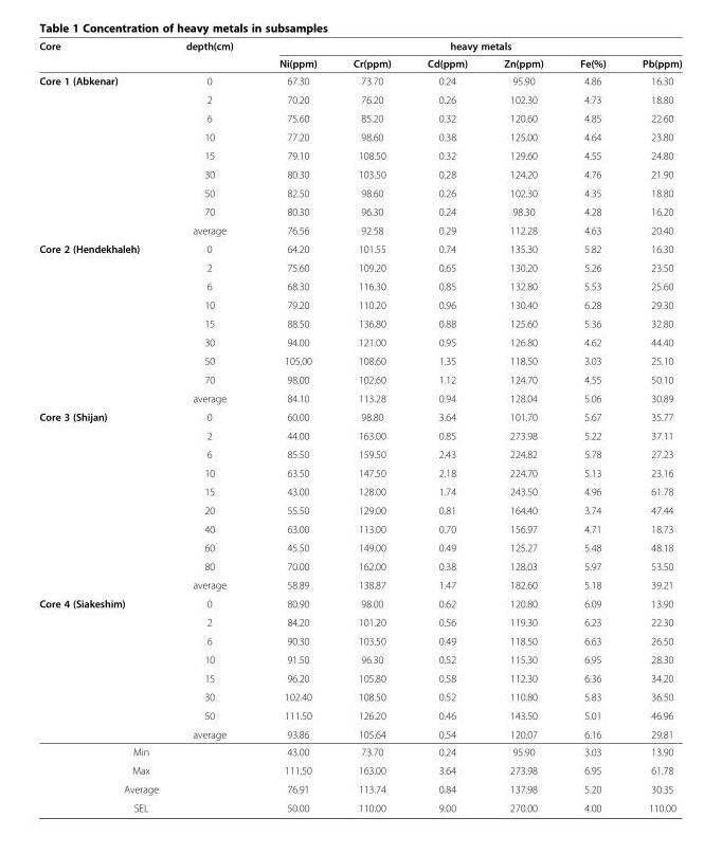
<table><thead><tr><td rowspan="2">Core</td><td rowspan="2">depth(cm)</td><td colspan="6">heavy metals</td></tr><tr><td>Ni(ppm)</td><td>Cr(ppm)</td><td>Cd(ppm)</td><td>Zn(ppm)</td><td>Fe(%)</td><td>Pb(ppm)</td></tr></thead><tbody><tr><td rowspan="9">Core 1 (Abkenar)</td><td>0</td><td>67.30</td><td>73.70</td><td>0.24</td><td>95.90</td><td>4.86</td><td>16.30</td></tr><tr><td>2</td><td>70.20</td><td>76.20</td><td>0.26</td><td>102.30</td><td>4.73</td><td>18.80</td></tr><tr><td>6</td><td>75.60</td><td>85.20</td><td>0.32</td><td>120.60</td><td>4.85</td><td>22.60</td></tr><tr><td>10</td><td>77.20</td><td>98.60</td><td>0.38</td><td>125.00</td><td>4.64</td><td>23.80</td></tr><tr><td>15</td><td>79.10</td><td>108.50</td><td>0.32</td><td>129.60</td><td>4.55</td><td>24.80</td></tr><tr><td>30</td><td>80.30</td><td>103.50</td><td>0.28</td><td>124.20</td><td>4.76</td><td>21.90</td></tr><tr><td>50</td><td>82.50</td><td>98.60</td><td>0.26</td><td>102.30</td><td>4.35</td><td>18.80</td></tr><tr><td>70</td><td>80.30</td><td>96.30</td><td>0.24</td><td>98.30</td><td>4.28</td><td>16.20</td></tr><tr><td>average</td><td>76.56</td><td>92.58</td><td>0.29</td><td>112.28</td><td>4.63</td><td>20.40</td></tr><tr><td rowspan="9">Core 2 (Hendekhaleh)</td><td>0</td><td>64.20</td><td>101.55</td><td>0.74</td><td>135.30</td><td>5.82</td><td>16.30</td></tr><tr><td>2</td><td>75.60</td><td>109.20</td><td>0.65</td><td>130.20</td><td>5.26</td><td>23.50</td></tr><tr><td>6</td><td>68.30</td><td>116.30</td><td>0.85</td><td>132.80</td><td>5.53</td><td>25.60</td></tr><tr><td>10</td><td>79.20</td><td>110.20</td><td>0.96</td><td>130.40</td><td>6.28</td><td>29.30</td></tr><tr><td>15</td><td>88.50</td><td>136.80</td><td>0.88</td><td>125.60</td><td>5.36</td><td>32.80</td></tr><tr><td>30</td><td>94.00</td><td>121.00</td><td>0.95</td><td>126.80</td><td>4.62</td><td>44.40</td></tr><tr><td>50</td><td>105.00</td><td>108.60</td><td>1.35</td><td>118.50</td><td>3.03</td><td>25.10</td></tr><tr><td>70</td><td>98.00</td><td>102.60</td><td>1.12</td><td>124.70</td><td>4.55</td><td>50.10</td></tr><tr><td>average</td><td>84.10</td><td>113.28</td><td>0.94</td><td>128.04</td><td>5.06</td><td>30.89</td></tr><tr><td rowspan="10">Core 3 (Shijan)</td><td>0</td><td>60.00</td><td>98.80</td><td>3.64</td><td>101.70</td><td>5.67</td><td>35.77</td></tr><tr><td>2</td><td>44.00</td><td>163.00</td><td>0.85</td><td>273.98</td><td>5.22</td><td>37.11</td></tr><tr><td>6</td><td>85.50</td><td>159.50</td><td>2.43</td><td>224.82</td><td>5.78</td><td>27.23</td></tr><tr><td>10</td><td>63.50</td><td>147.50</td><td>2.18</td><td>224.70</td><td>5.13</td><td>23.16</td></tr><tr><td>15</td><td>43.00</td><td>128.00</td><td>1.74</td><td>243.50</td><td>4.96</td><td>61.78</td></tr><tr><td>20</td><td>55.50</td><td>129.00</td><td>0.81</td><td>164.40</td><td>3.74</td><td>47.44</td></tr><tr><td>40</td><td>63.00</td><td>113.00</td><td>0.70</td><td>156.97</td><td>4.71</td><td>18.73</td></tr><tr><td>60</td><td>45.50</td><td>149.00</td><td>0.49</td><td>125.27</td><td>5.48</td><td>48.18</td></tr><tr><td>80</td><td>70.00</td><td>162.00</td><td>0.38</td><td>128.03</td><td>5.97</td><td>53.50</td></tr><tr><td>average</td><td>58.89</td><td>138.87</td><td>1.47</td><td>182.60</td><td>5.18</td><td>39.21</td></tr><tr><td rowspan="8">Core 4 (Siakeshim)</td><td>0</td><td>80.90</td><td>98.00</td><td>0.62</td><td>120.80</td><td>6.09</td><td>13.90</td></tr><tr><td>2</td><td>84.20</td><td>101.20</td><td>0.56</td><td>119.30</td><td>6.23</td><td>22.30</td></tr><tr><td>6</td><td>90.30</td><td>103.50</td><td>0.49</td><td>118.50</td><td>6.63</td><td>26.50</td></tr><tr><td>10</td><td>91.50</td><td>96.30</td><td>0.52</td><td>115.30</td><td>6.95</td><td>28.30</td></tr><tr><td>15</td><td>96.20</td><td>105.80</td><td>0.58</td><td>112.30</td><td>6.36</td><td>34.20</td></tr><tr><td>30</td><td>102.40</td><td>108.50</td><td>0.52</td><td>110.80</td><td>5.83</td><td>36.50</td></tr><tr><td>50</td><td>111.50</td><td>126.20</td><td>0.46</td><td>143.50</td><td>5.01</td><td>46.96</td></tr><tr><td>average</td><td>93.86</td><td>105.64</td><td>0.54</td><td>120.07</td><td>6.16</td><td>29.81</td></tr><tr><td colspan="2">Min</td><td>43.00</td><td>73.70</td><td>0.24</td><td>95.90</td><td>3.03</td><td>13.90</td></tr><tr><td colspan="2">Max</td><td>111.50</td><td>163.00</td><td>3.64</td><td>273.98</td><td>6.95</td><td>61.78</td></tr><tr><td colspan="2">Average</td><td>76.91</td><td>113.74</td><td>0.84</td><td>137.98</td><td>5.20</td><td>30.35</td></tr><tr><td colspan="2">SEL</td><td>50.00</td><td>110.00</td><td>9.00</td><td>270.00</td><td>4.00</td><td>110.00</td></tr></tbody></table>